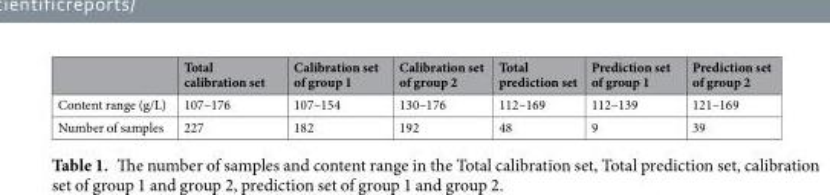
<table><thead><tr><td></td><td>Total calibration set</td><td>Calibration set of group 1</td><td>Calibration set of group 2</td><td>Total prediction set</td><td>Prediction set of group 1</td><td>Prediction set of group 2</td></tr></thead><tbody><tr><td>Content range (g/L)</td><td>107–176</td><td>107–154</td><td>130–176</td><td>112–169</td><td>112–139</td><td>121–169</td></tr><tr><td>Number of samples</td><td>227</td><td>182</td><td>192</td><td>48</td><td>9</td><td>39</td></tr></tbody></table>